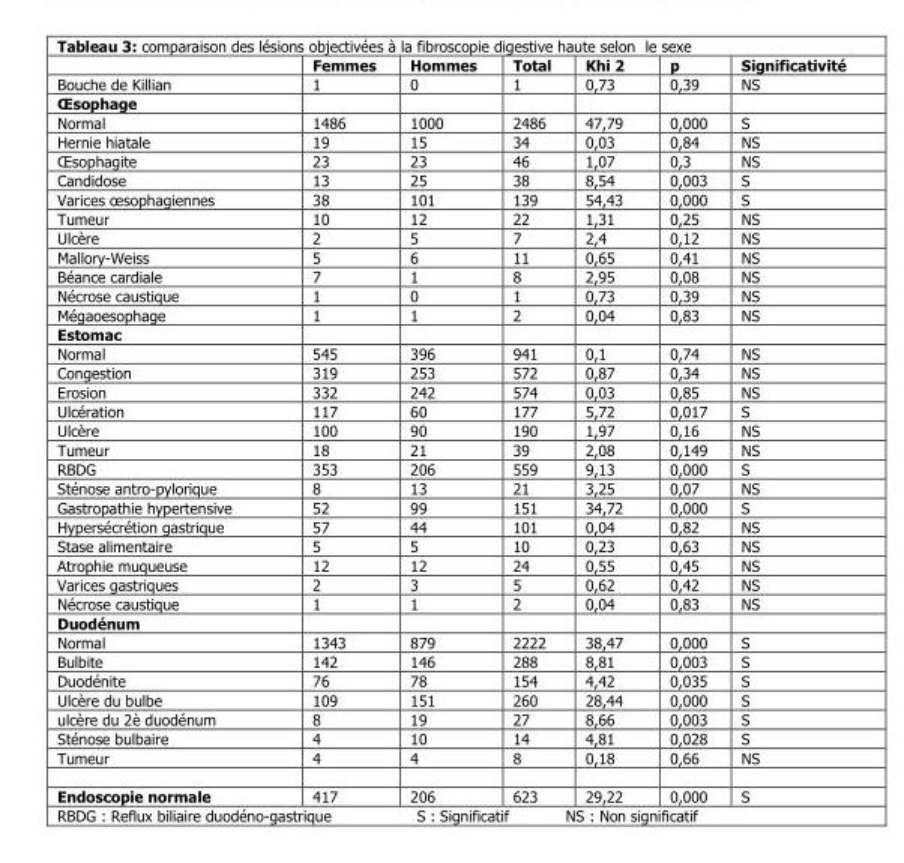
<table><thead><tr><td></td><td>Femmes</td><td>Hommes</td><td>Total</td><td>Khi 2</td><td>p</td><td>Significativité</td></tr></thead><tbody><tr><td>Bouche de Killian</td><td>1</td><td>0</td><td>1</td><td>0,73</td><td>0,39</td><td>NS</td></tr><tr><td colspan="7">Œsophage</td></tr><tr><td>Normal</td><td>1486</td><td>1000</td><td>2486</td><td>47,79</td><td>0,000</td><td>S</td></tr><tr><td>Hernie hiatale</td><td>19</td><td>15</td><td>34</td><td>0,03</td><td>0,84</td><td>NS</td></tr><tr><td>Œsophagite</td><td>23</td><td>23</td><td>46</td><td>1,07</td><td>0,3</td><td>NS</td></tr><tr><td>Candidose</td><td>13</td><td>25</td><td>38</td><td>8,54</td><td>0,003</td><td>S</td></tr><tr><td>Varices œsophagiennes</td><td>38</td><td>101</td><td>139</td><td>54,43</td><td>0,000</td><td>S</td></tr><tr><td>Tumeur</td><td>10</td><td>12</td><td>22</td><td>1,31</td><td>0,25</td><td>NS</td></tr><tr><td>Ulcère</td><td>2</td><td>5</td><td>7</td><td>2,4</td><td>0,12</td><td>NS</td></tr><tr><td>Mallory-Weiss</td><td>5</td><td>6</td><td>11</td><td>0,65</td><td>0,41</td><td>NS</td></tr><tr><td>Béance cardiale</td><td>7</td><td>1</td><td>8</td><td>2,95</td><td>0,08</td><td>NS</td></tr><tr><td>Nécrose caustique</td><td>1</td><td>0</td><td>1</td><td>0,73</td><td>0,39</td><td>NS</td></tr><tr><td>Mégaoesophage</td><td>1</td><td>1</td><td>2</td><td>0,04</td><td>0,83</td><td>NS</td></tr><tr><td colspan="7">Estomac</td></tr><tr><td>Normal</td><td>545</td><td>396</td><td>941</td><td>0,1</td><td>0,74</td><td>NS</td></tr><tr><td>Congestion</td><td>319</td><td>253</td><td>572</td><td>0,87</td><td>0,34</td><td>NS</td></tr><tr><td>Erosion</td><td>332</td><td>242</td><td>574</td><td>0,03</td><td>0,85</td><td>NS</td></tr><tr><td>Ulcération</td><td>117</td><td>60</td><td>177</td><td>5,72</td><td>0,017</td><td>S</td></tr><tr><td>Ulcère</td><td>100</td><td>90</td><td>190</td><td>1,97</td><td>0,16</td><td>NS</td></tr><tr><td>Tumeur</td><td>18</td><td>21</td><td>39</td><td>2,08</td><td>0,149</td><td>NS</td></tr><tr><td>RBDG</td><td>353</td><td>206</td><td>559</td><td>9,13</td><td>0,000</td><td>S</td></tr><tr><td>Sténose antro-pylorique</td><td>8</td><td>13</td><td>21</td><td>3,25</td><td>0,07</td><td>NS</td></tr><tr><td>Gastropathie hypertensive</td><td>52</td><td>99</td><td>151</td><td>34,72</td><td>0,000</td><td>S</td></tr><tr><td>Hypersécrétion gastrique</td><td>57</td><td>44</td><td>101</td><td>0,04</td><td>0,82</td><td>NS</td></tr><tr><td>Stase alimentaire</td><td>5</td><td>5</td><td>10</td><td>0,23</td><td>0,63</td><td>NS</td></tr><tr><td>Atrophie muqueuse</td><td>12</td><td>12</td><td>24</td><td>0,55</td><td>0,45</td><td>NS</td></tr><tr><td>Varices gastriques</td><td>2</td><td>3</td><td>5</td><td>0,62</td><td>0,42</td><td>NS</td></tr><tr><td>Nécrose caustique</td><td>1</td><td>1</td><td>2</td><td>0,04</td><td>0,83</td><td>NS</td></tr><tr><td colspan="7">Duodénum</td></tr><tr><td>Normal</td><td>1343</td><td>879</td><td>2222</td><td>38,47</td><td>0,000</td><td>S</td></tr><tr><td>Bulbite</td><td>142</td><td>146</td><td>288</td><td>8,81</td><td>0,003</td><td>S</td></tr><tr><td>Duodénite</td><td>76</td><td>78</td><td>154</td><td>4,42</td><td>0,035</td><td>S</td></tr><tr><td>Ulcère du bulbe</td><td>109</td><td>151</td><td>260</td><td>28,44</td><td>0,000</td><td>S</td></tr><tr><td>ulcère du 2è duodénum</td><td>8</td><td>19</td><td>27</td><td>8,66</td><td>0,003</td><td>S</td></tr><tr><td>Sténose bulbaire</td><td>4</td><td>10</td><td>14</td><td>4,81</td><td>0,028</td><td>S</td></tr><tr><td>Tumeur</td><td>4</td><td>4</td><td>8</td><td>0,18</td><td>0,66</td><td>NS</td></tr><tr><td>Endoscopie normale</td><td>417</td><td>206</td><td>623</td><td>29,22</td><td>0,000</td><td>S</td></tr></tbody></table>